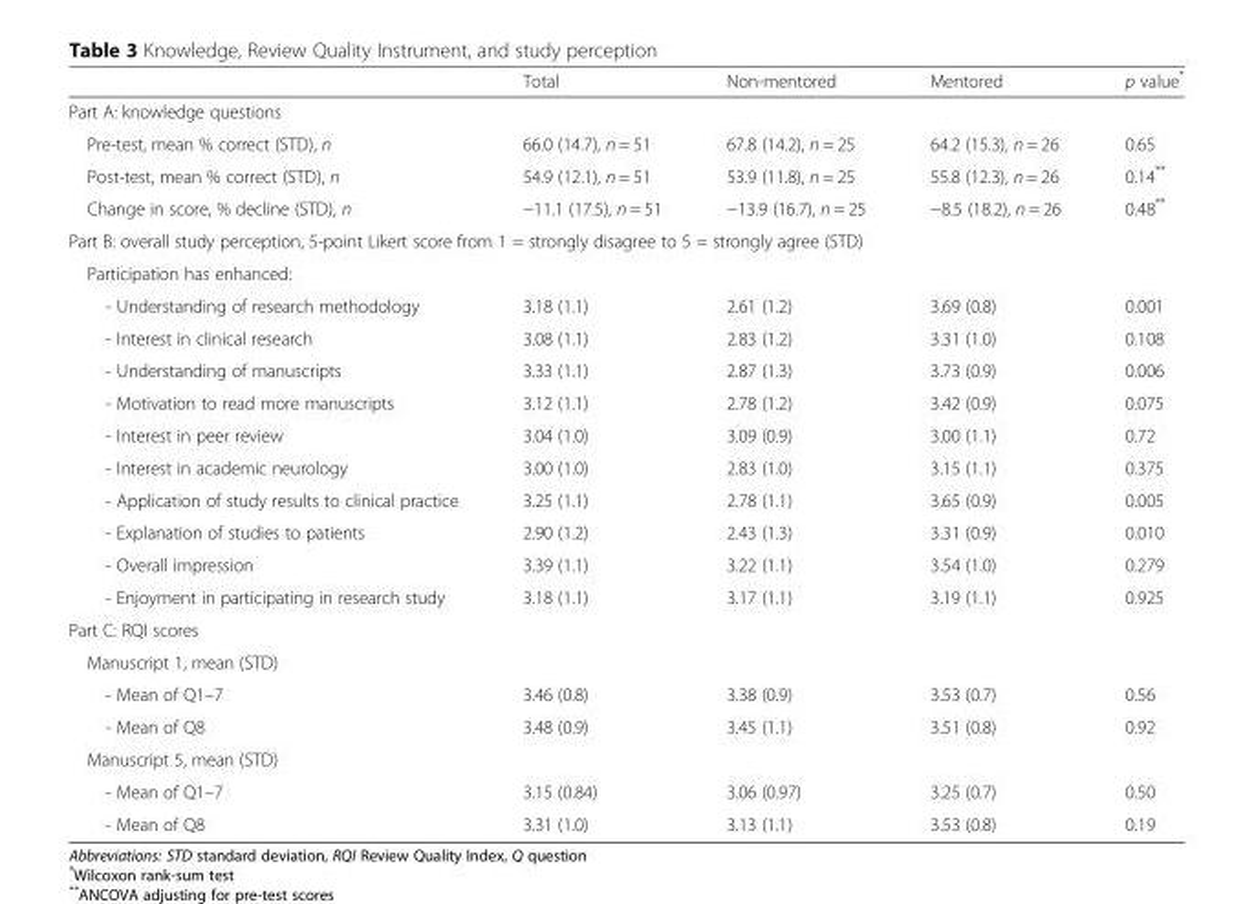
<table><thead><tr><td></td><td>Total</td><td>Non-mentored</td><td>Mentored</td><td>p value*</td></tr></thead><tbody><tr><td colspan="5">Part A: knowledge questions</td></tr><tr><td>Pre-test, mean % correct (STD), n</td><td>66.0 (14.7), n = 51</td><td>67.8 (14.2), n = 25</td><td>64.2 (15.3), n = 26</td><td>0.65</td></tr><tr><td>Post-test, mean % correct (STD), n</td><td>54.9 (12.1), n = 51</td><td>53.9 (11.8), n = 25</td><td>55.8 (12.3), n = 26</td><td>0.14**</td></tr><tr><td>Change in score, % decline (STD), n</td><td>−11.1 (17.5), n = 51</td><td>−13.9 (16.7), n = 25</td><td>−8.5 (18.2), n = 26</td><td>0.48**</td></tr><tr><td colspan="5">Part B: overall study perception, 5-point Likert score from 1 = strongly disagree to 5 = strongly agree (STD)</td></tr><tr><td colspan="5">Participation has enhanced:</td></tr><tr><td>- Understanding of research methodology</td><td>3.18 (1.1)</td><td>2.61 (1.2)</td><td>3.69 (0.8)</td><td>0.001</td></tr><tr><td>- Interest in clinical research</td><td>3.08 (1.1)</td><td>2.83 (1.2)</td><td>3.31 (1.0)</td><td>0.108</td></tr><tr><td>- Understanding of manuscripts</td><td>3.33 (1.1)</td><td>2.87 (1.3)</td><td>3.73 (0.9)</td><td>0.006</td></tr><tr><td>- Motivation to read more manuscripts</td><td>3.12 (1.1)</td><td>2.78 (1.2)</td><td>3.42 (0.9)</td><td>0.075</td></tr><tr><td>- Interest in peer review</td><td>3.04 (1.0)</td><td>3.09 (0.9)</td><td>3.00 (1.1)</td><td>0.72</td></tr><tr><td>- Interest in academic neurology</td><td>3.00 (1.0)</td><td>2.83 (1.0)</td><td>3.15 (1.1)</td><td>0.375</td></tr><tr><td>- Application of study results to clinical practice</td><td>3.25 (1.1)</td><td>2.78 (1.1)</td><td>3.65 (0.9)</td><td>0.005</td></tr><tr><td>- Explanation of studies to patients</td><td>2.90 (1.2)</td><td>2.43 (1.3)</td><td>3.31 (0.9)</td><td>0.010</td></tr><tr><td>- Overall impression</td><td>3.39 (1.1)</td><td>3.22 (1.1)</td><td>3.54 (1.0)</td><td>0.279</td></tr><tr><td>- Enjoyment in participating in research study</td><td>3.18 (1.1)</td><td>3.17 (1.1)</td><td>3.19 (1.1)</td><td>0.925</td></tr><tr><td colspan="5">Part C: RQI scores</td></tr><tr><td colspan="5">Manuscript 1, mean (STD)</td></tr><tr><td>- Mean of Q1–7</td><td>3.46 (0.8)</td><td>3.38 (0.9)</td><td>3.53 (0.7)</td><td>0.56</td></tr><tr><td>- Mean of Q8</td><td>3.48 (0.9)</td><td>3.45 (1.1)</td><td>3.51 (0.8)</td><td>0.92</td></tr><tr><td colspan="5">Manuscript 5, mean (STD)</td></tr><tr><td>- Mean of Q1–7</td><td>3.15 (0.84)</td><td>3.06 (0.97)</td><td>3.25 (0.7)</td><td>0.50</td></tr><tr><td>- Mean of Q8</td><td>3.31 (1.0)</td><td>3.13 (1.1)</td><td>3.53 (0.8)</td><td>0.19</td></tr></tbody></table>